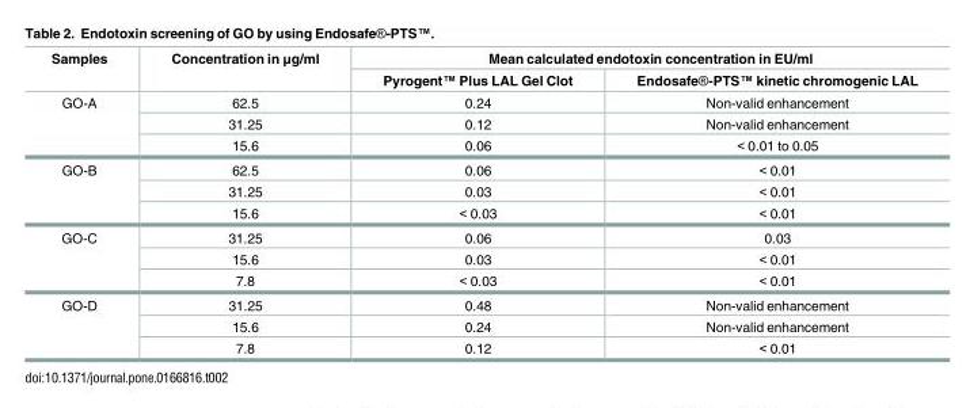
<table><thead><tr><td rowspan="2">Samples</td><td rowspan="2">Concentration in μg/ml</td><td colspan="2">Mean calculated endotoxin concentration in EU/ml</td></tr><tr><td>Pyrogent™ Plus LAL Gel Clot</td><td>Endosafe®-PTS™ kinetic chromogenic LAL</td></tr></thead><tbody><tr><td rowspan="3">GO-A</td><td>62.5</td><td>0.24</td><td>Non-valid enhancement</td></tr><tr><td>31.25</td><td>0.12</td><td>Non-valid enhancement</td></tr><tr><td>15.6</td><td>0.06</td><td>&lt; 0.01 to 0.05</td></tr><tr><td rowspan="3">GO-B</td><td>62.5</td><td>0.06</td><td>&lt; 0.01</td></tr><tr><td>31.25</td><td>0.03</td><td>&lt; 0.01</td></tr><tr><td>15.6</td><td>&lt; 0.03</td><td>&lt; 0.01</td></tr><tr><td rowspan="3">GO-C</td><td>31.25</td><td>0.06</td><td>0.03</td></tr><tr><td>15.6</td><td>0.03</td><td>&lt; 0.01</td></tr><tr><td>7.8</td><td>&lt; 0.03</td><td>&lt; 0.01</td></tr><tr><td rowspan="3">GO-D</td><td>31.25</td><td>0.48</td><td>Non-valid enhancement</td></tr><tr><td>15.6</td><td>0.24</td><td>Non-valid enhancement</td></tr><tr><td>7.8</td><td>0.12</td><td>&lt; 0.01</td></tr></tbody></table>